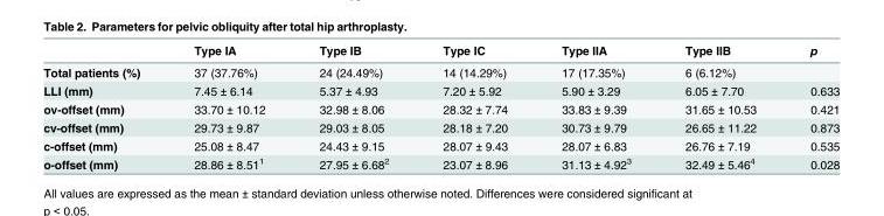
<table><thead><tr><td></td><td>Type IA</td><td>Type IB</td><td>Type IC</td><td>Type IIA</td><td>Type IIB</td><td>p</td></tr></thead><tbody><tr><td>Total patients (%)</td><td>37 (37.76%)</td><td>24 (24.49%)</td><td>14 (14.29%)</td><td>17 (17.35%)</td><td>6 (6.12%)</td><td></td></tr><tr><td>LLI (mm)</td><td>7.45 ± 6.14</td><td>5.37 ± 4.93</td><td>7.20 ± 5.92</td><td>5.90 ± 3.29</td><td>6.05 ± 7.70</td><td>0.633</td></tr><tr><td>ov-offset (mm)</td><td>33.70 ± 10.12</td><td>32.98 ± 8.06</td><td>28.32 ± 7.74</td><td>33.83 ± 9.39</td><td>31.65 ± 10.53</td><td>0.421</td></tr><tr><td>cv-offset (mm)</td><td>29.73 ± 9.87</td><td>29.03 ± 8.05</td><td>28.18 ± 7.20</td><td>30.73 ± 9.79</td><td>26.65 ± 11.22</td><td>0.873</td></tr><tr><td>c-offset (mm)</td><td>25.08 ± 8.47</td><td>24.43 ± 9.15</td><td>28.07 ± 9.43</td><td>28.07 ± 6.83</td><td>26.76 ± 7.19</td><td>0.535</td></tr><tr><td>o-offset (mm)</td><td>28.86 ± 8.51<sup>1</sup></td><td>27.95 ± 6.68<sup>2</sup></td><td>23.07 ± 8.96</td><td>31.13 ± 4.92<sup>3</sup></td><td>32.49 ± 5.46<sup>4</sup></td><td>0.028</td></tr></tbody></table>